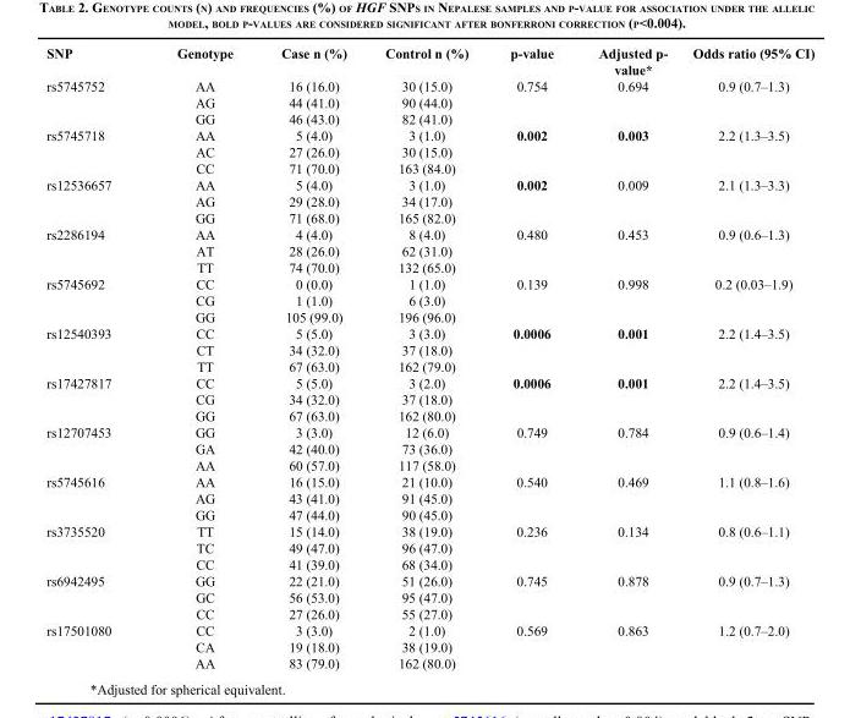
<table><thead><tr><td>SNP</td><td>Genotype</td><td>Case n (%)</td><td>Control n (%)</td><td>p-value</td><td>Adjusted p- value*</td><td>Odds ratio (95% CI)</td></tr></thead><tbody><tr><td rowspan="3">rs5745752</td><td>AA</td><td>16 (16.0)</td><td>30 (15.0)</td><td>0.754</td><td>0.694</td><td>0.9 (0.7–1.3)</td></tr><tr><td>AG</td><td>44 (41.0)</td><td>90 (44.0)</td><td></td><td></td><td></td></tr><tr><td>GG</td><td>46 (43.0)</td><td>82 (41.0)</td><td></td><td></td><td></td></tr><tr><td rowspan="3">rs5745718</td><td>AA</td><td>5 (4.0)</td><td>3 (1.0)</td><td>0.002</td><td>0.003</td><td>2.2 (1.3–3.5)</td></tr><tr><td>AC</td><td>27 (26.0)</td><td>30 (15.0)</td><td></td><td></td><td></td></tr><tr><td>CC</td><td>71 (70.0)</td><td>163 (84.0)</td><td></td><td></td><td></td></tr><tr><td rowspan="3">rs12536657</td><td>AA</td><td>5 (4.0)</td><td>3 (1.0)</td><td>0.002</td><td>0.009</td><td>2.1 (1.3–3.3)</td></tr><tr><td>AG</td><td>29 (28.0)</td><td>34 (17.0)</td><td></td><td></td><td></td></tr><tr><td>GG</td><td>71 (68.0)</td><td>165 (82.0)</td><td></td><td></td><td></td></tr><tr><td rowspan="3">rs2286194</td><td>AA</td><td>4 (4.0)</td><td>8 (4.0)</td><td>0.480</td><td>0.453</td><td>0.9 (0.6–1.3)</td></tr><tr><td>AT</td><td>28 (26.0)</td><td>62 (31.0)</td><td></td><td></td><td></td></tr><tr><td>TT</td><td>74 (70.0)</td><td>132 (65.0)</td><td></td><td></td><td></td></tr><tr><td rowspan="3">rs5745692</td><td>CC</td><td>0 (0.0)</td><td>1 (1.0)</td><td>0.139</td><td>0.998</td><td>0.2 (0.03–1.9)</td></tr><tr><td>CG</td><td>1 (1.0)</td><td>6 (3.0)</td><td></td><td></td><td></td></tr><tr><td>GG</td><td>105 (99.0)</td><td>196 (96.0)</td><td></td><td></td><td></td></tr><tr><td rowspan="3">rs12540393</td><td>CC</td><td>5 (5.0)</td><td>3 (3.0)</td><td>0.0006</td><td>0.001</td><td>2.2 (1.4–3.5)</td></tr><tr><td>CT</td><td>34 (32.0)</td><td>37 (18.0)</td><td></td><td></td><td></td></tr><tr><td>TT</td><td>67 (63.0)</td><td>162 (79.0)</td><td></td><td></td><td></td></tr><tr><td rowspan="3">rs17427817</td><td>CC</td><td>5 (5.0)</td><td>3 (2.0)</td><td>0.0006</td><td>0.001</td><td>2.2 (1.4–3.5)</td></tr><tr><td>CG</td><td>34 (32.0)</td><td>37 (18.0)</td><td></td><td></td><td></td></tr><tr><td>GG</td><td>67 (63.0)</td><td>162 (80.0)</td><td></td><td></td><td></td></tr><tr><td rowspan="3">rs12707453</td><td>GG</td><td>3 (3.0)</td><td>12 (6.0)</td><td>0.749</td><td>0.784</td><td>0.9 (0.6–1.4)</td></tr><tr><td>GA</td><td>42 (40.0)</td><td>73 (36.0)</td><td></td><td></td><td></td></tr><tr><td>AA</td><td>60 (57.0)</td><td>117 (58.0)</td><td></td><td></td><td></td></tr><tr><td rowspan="3">rs5745616</td><td>AA</td><td>16 (15.0)</td><td>21 (10.0)</td><td>0.540</td><td>0.469</td><td>1.1 (0.8–1.6)</td></tr><tr><td>AG</td><td>43 (41.0)</td><td>91 (45.0)</td><td></td><td></td><td></td></tr><tr><td>GG</td><td>47 (44.0)</td><td>90 (45.0)</td><td></td><td></td><td></td></tr><tr><td rowspan="3">rs3735520</td><td>TT</td><td>15 (14.0)</td><td>38 (19.0)</td><td>0.236</td><td>0.134</td><td>0.8 (0.6–1.1)</td></tr><tr><td>TC</td><td>49 (47.0)</td><td>96 (47.0)</td><td></td><td></td><td></td></tr><tr><td>CC</td><td>41 (39.0)</td><td>68 (34.0)</td><td></td><td></td><td></td></tr><tr><td rowspan="3">rs6942495</td><td>GG</td><td>22 (21.0)</td><td>51 (26.0)</td><td>0.745</td><td>0.878</td><td>0.9 (0.7–1.3)</td></tr><tr><td>GC</td><td>56 (53.0)</td><td>95 (47.0)</td><td></td><td></td><td></td></tr><tr><td>CC</td><td>27 (26.0)</td><td>55 (27.0)</td><td></td><td></td><td></td></tr><tr><td rowspan="3">rs17501080</td><td>CC</td><td>3 (3.0)</td><td>2 (1.0)</td><td>0.569</td><td>0.863</td><td>1.2 (0.7–2.0)</td></tr><tr><td>CA</td><td>19 (18.0)</td><td>38 (19.0)</td><td></td><td></td><td></td></tr><tr><td>AA</td><td>83 (79.0)</td><td>162 (80.0)</td><td></td><td></td><td></td></tr></tbody></table>